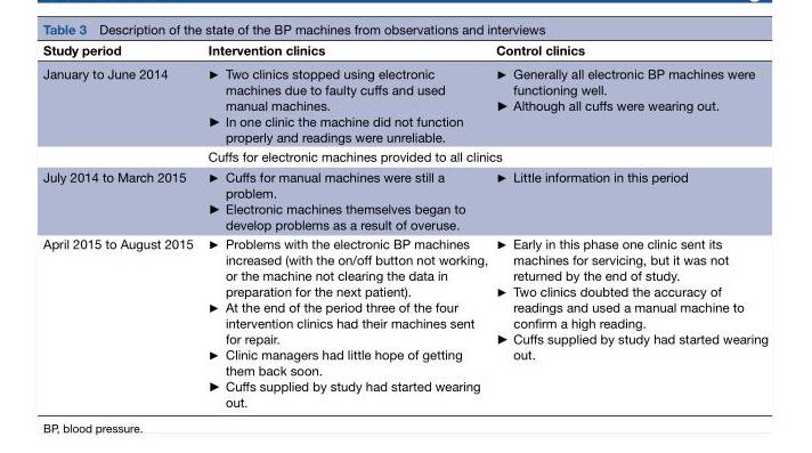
<table><thead><tr><td>Study period</td><td>Intervention clinics</td><td>Control clinics</td></tr></thead><tbody><tr><td rowspan="2">January to June 2014</td><td>► Two clinics stopped using electronic machines due to faulty cuffs and used manual machines. ► In one clinic the machine did not function properly and readings were unreliable.</td><td>► Generally all electronic BP machines were functioning well. ► Although all cuffs were wearing out.</td></tr><tr><td colspan="2">Cuffs for electronic machines provided to all clinics</td></tr><tr><td>July 2014 to March 2015</td><td>► Cuffs for manual machines were still a problem. ► Electronic machines themselves began to develop problems as a result of overuse.</td><td>► Little information in this period</td></tr><tr><td>April 2015 to August 2015</td><td>► Problems with the electronic BP machines increased (with the on/off button not working, or the machine not clearing the data in preparation for the next patient). ► At the end of the period three of the four intervention clinics had their machines sent for repair. ► Clinic managers had little hope of getting them back soon. ► Cuffs supplied by study had started wearing out.</td><td>► Early in this phase one clinic sent its machines for servicing, but it was not returned by the end of study. ► Two clinics doubted the accuracy of readings and used a manual machine to confirm a high reading. ► Cuffs supplied by study had started wearing out.</td></tr></tbody></table>